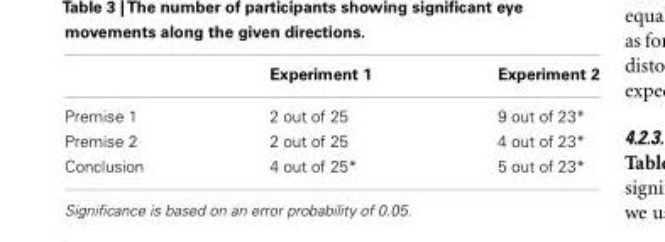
<table><thead><tr><td></td><td>Experiment 1</td><td>Experiment 2</td></tr></thead><tbody><tr><td>Premise 1</td><td>2 out of 25</td><td>9 out of 23*</td></tr><tr><td>Premise 2</td><td>2 out of 25</td><td>4 out of 23*</td></tr><tr><td>Conclusion</td><td>4 out of 25*</td><td>5 out of 23*</td></tr></tbody></table>